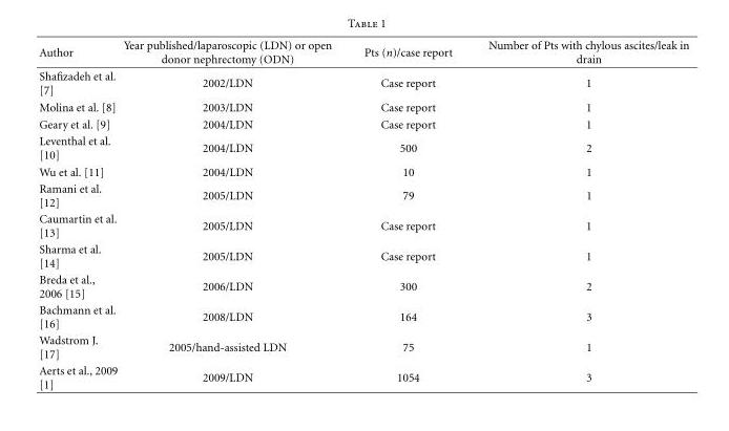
<table><thead><tr><td>Author</td><td>Year published/laparoscopic (LDN) or open donor nephrectomy (ODN)</td><td>Pts (n)/case report</td><td>Number of Pts with chylous ascites/leak in drain</td></tr></thead><tbody><tr><td>Shafizadeh et al. [7]</td><td>2002/LDN</td><td>Case report</td><td>1</td></tr><tr><td>Molina et al. [8]</td><td>2003/LDN</td><td>Case report</td><td>1</td></tr><tr><td>Geary et al. [9]</td><td>2004/LDN</td><td>Case report</td><td>1</td></tr><tr><td>Leventhal et al. [10]</td><td>2004/LDN</td><td>500</td><td>2</td></tr><tr><td>Wu et al. [11]</td><td>2004/LDN</td><td>10</td><td>1</td></tr><tr><td>Ramani et al. [12]</td><td>2005/LDN</td><td>79</td><td>1</td></tr><tr><td>Caumartin et al. [13]</td><td>2005/LDN</td><td>Case report</td><td>1</td></tr><tr><td>Sharma et al. [14]</td><td>2005/LDN</td><td>Case report</td><td>1</td></tr><tr><td>Breda et al., 2006 [15]</td><td>2006/LDN</td><td>300</td><td>2</td></tr><tr><td>Bachmann et al. [16]</td><td>2008/LDN</td><td>164</td><td>3</td></tr><tr><td>Wadstrom J. [17]</td><td>2005/hand-assisted LDN</td><td>75</td><td>1</td></tr><tr><td>Aerts et al., 2009 [1]</td><td>2009/LDN</td><td>1054</td><td>3</td></tr></tbody></table>